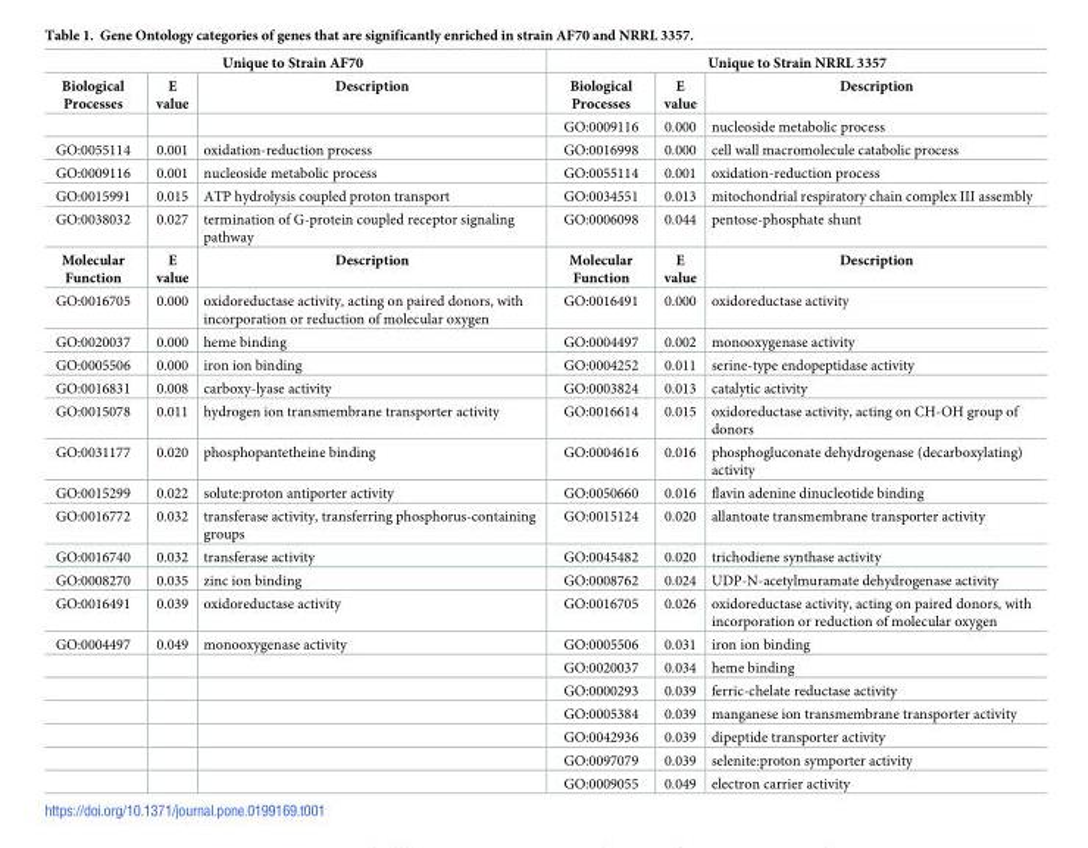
<table><thead><tr><td colspan="3">Unique to Strain AF70</td><td colspan="3">Unique to Strain NRRL 3357</td></tr><tr><td>Biological Processes</td><td>E value</td><td>Description</td><td>Biological Processes</td><td>E value</td><td>Description</td></tr></thead><tbody><tr><td></td><td></td><td></td><td>GO:0009116</td><td>0.000</td><td>nucleoside metabolic process</td></tr><tr><td>GO:0055114</td><td>0.001</td><td>oxidation-reduction process</td><td>GO:0016998</td><td>0.000</td><td>cell wall macromolecule catabolic process</td></tr><tr><td>GO:0009116</td><td>0.001</td><td>nucleoside metabolic process</td><td>GO:0055114</td><td>0.001</td><td>oxidation-reduction process</td></tr><tr><td>GO:0015991</td><td>0.015</td><td>ATP hydrolysis coupled proton transport</td><td>GO:0034551</td><td>0.013</td><td>mitochondrial respiratory chain complex III assembly</td></tr><tr><td>GO:0038032</td><td>0.027</td><td>termination of G-protein coupled receptor signaling pathway</td><td>GO:0006098</td><td>0.044</td><td>pentose-phosphate shunt</td></tr><tr><td>Molecular Function</td><td>E value</td><td>Description</td><td>Molecular Function</td><td>E value</td><td>Description</td></tr><tr><td>GO:0016705</td><td>0.000</td><td>oxidoreductase activity, acting on paired donors, with incorporation or reduction of molecular oxygen</td><td>GO:0016491</td><td>0.000</td><td>oxidoreductase activity</td></tr><tr><td>GO:0020037</td><td>0.000</td><td>heme binding</td><td>GO:0004497</td><td>0.002</td><td>monooxygenase activity</td></tr><tr><td>GO:0005506</td><td>0.000</td><td>iron ion binding</td><td>GO:0004252</td><td>0.011</td><td>serine-type endopeptidase activity</td></tr><tr><td>GO:0016831</td><td>0.008</td><td>carboxy-lyase activity</td><td>GO:0003824</td><td>0.013</td><td>catalytic activity</td></tr><tr><td>GO:0015078</td><td>0.011</td><td>hydrogen ion transmembrane transporter activity</td><td>GO:0016614</td><td>0.015</td><td>oxidoreductase activity, acting on CH-OH group of donors</td></tr><tr><td>GO:0031177</td><td>0.020</td><td>phosphopantetheine binding</td><td>GO:0004616</td><td>0.016</td><td>phosphogluconate dehydrogenase (decarboxylating) activity</td></tr><tr><td>GO:0015299</td><td>0.022</td><td>solute:proton antiporter activity</td><td>GO:0050660</td><td>0.016</td><td>flavin adenine dinucleotide binding</td></tr><tr><td>GO:0016772</td><td>0.032</td><td>transferase activity, transferring phosphorus-containing groups</td><td>GO:0015124</td><td>0.020</td><td>allantoate transmembrane transporter activity</td></tr><tr><td>GO:0016740</td><td>0.032</td><td>transferase activity</td><td>GO:0045482</td><td>0.020</td><td>trichodiene synthase activity</td></tr><tr><td>GO:0008270</td><td>0.035</td><td>zinc ion binding</td><td>GO:0008762</td><td>0.024</td><td>UDP-N-acetylmuramate dehydrogenase activity</td></tr><tr><td>GO:0016491</td><td>0.039</td><td>oxidoreductase activity</td><td>GO:0016705</td><td>0.026</td><td>oxidoreductase activity, acting on paired donors, with incorporation or reduction of molecular oxygen</td></tr><tr><td rowspan="7">GO:0004497</td><td>0.049</td><td>monooxygenase activity</td><td>GO:0005506</td><td>0.031</td><td>iron ion binding</td></tr><tr><td></td><td></td><td>GO:0020037</td><td>0.034</td><td>heme binding</td></tr><tr><td></td><td></td><td>GO:0000293</td><td>0.039</td><td>ferric-chelate reductase activity</td></tr><tr><td></td><td></td><td>GO:0005384</td><td>0.039</td><td>manganese ion transmembrane transporter activity</td></tr><tr><td></td><td></td><td>GO:0042936</td><td>0.039</td><td>dipeptide transporter activity</td></tr><tr><td></td><td></td><td>GO:0097079</td><td>0.039</td><td>selenite:proton symporter activity</td></tr><tr><td></td><td></td><td>GO:0009055</td><td>0.049</td><td>electron carrier activity</td></tr></tbody></table>